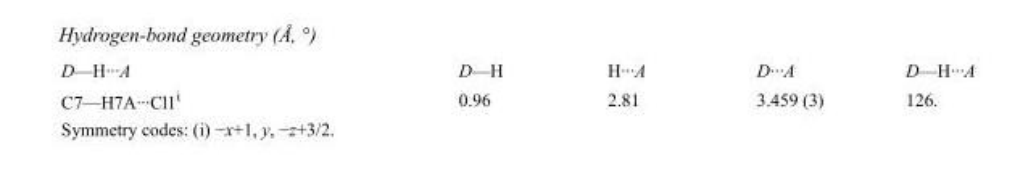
<table><tbody><tr><td>D—H···A</td><td>D—H</td><td>H···A</td><td>D···A</td><td>D—H···A</td></tr><tr><td>C7—H7A···Cl1<sup>i</sup></td><td>0.96</td><td>2.81</td><td>3.459 (3)</td><td>126.</td></tr></tbody></table>